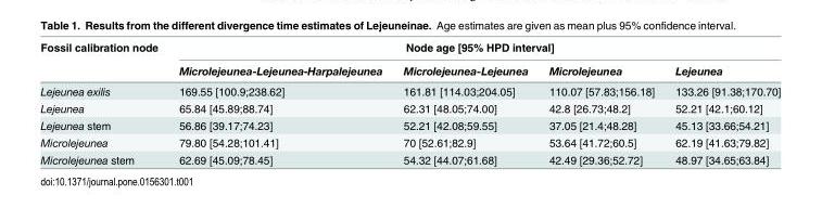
<table><thead><tr><td rowspan="2">Fossil calibration node</td><td colspan="4">Node age [95% HPD interval]</td></tr><tr><td>Microlejeunea-Lejeunea-Harpalejeunea</td><td>Microlejeunea-Lejeunea</td><td>Microlejeunea</td><td>Lejeunea</td></tr></thead><tbody><tr><td>Lejeunea exilis</td><td>169.55 [100.9;238.62]</td><td>161.81 [114.03;204.05]</td><td>110.07 [57.83;156.18]</td><td>133.26 [91.38;170.70]</td></tr><tr><td>Lejeunea</td><td>65.84 [45.89;88.74]</td><td>62.31 [48.05;74.00]</td><td>42.8 [26.73;48.2]</td><td>52.21 [42.1;60.12]</td></tr><tr><td>Lejeunea stem</td><td>56.86 [39.17;74.23]</td><td>52.21 [42.08;59.55]</td><td>37.05 [21.4;48.28]</td><td>45.13 [33.66;54.21]</td></tr><tr><td>Microlejeunea</td><td>79.80 [54.28;101.41]</td><td>70 [52.61;82.9]</td><td>53.64 [41.72;60.5]</td><td>62.19 [41.63;79.82]</td></tr><tr><td>Microlejeunea stem</td><td>62.69 [45.09;78.45]</td><td>54.32 [44.07;61.68]</td><td>42.49 [29.36;52.72]</td><td>48.97 [34.65;63.84]</td></tr></tbody></table>